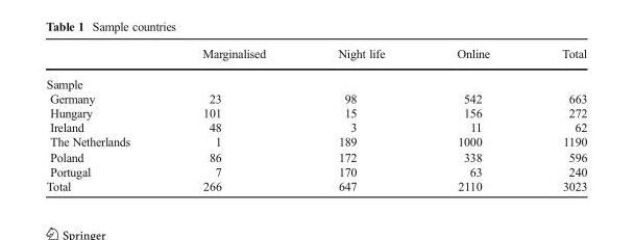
<table><thead><tr><td></td><td>Marginalised</td><td>Night life</td><td>Online</td><td>Total</td></tr></thead><tbody><tr><td colspan="5">Sample</td></tr><tr><td>Germany</td><td>23</td><td>98</td><td>542</td><td>663</td></tr><tr><td>Hungary</td><td>101</td><td>15</td><td>156</td><td>272</td></tr><tr><td>Ireland</td><td>48</td><td>3</td><td>11</td><td>62</td></tr><tr><td>The Netherlands</td><td>1</td><td>189</td><td>1000</td><td>1190</td></tr><tr><td>Poland</td><td>86</td><td>172</td><td>338</td><td>596</td></tr><tr><td>Portugal</td><td>7</td><td>170</td><td>63</td><td>240</td></tr><tr><td>Total</td><td>266</td><td>647</td><td>2110</td><td>3023</td></tr></tbody></table>